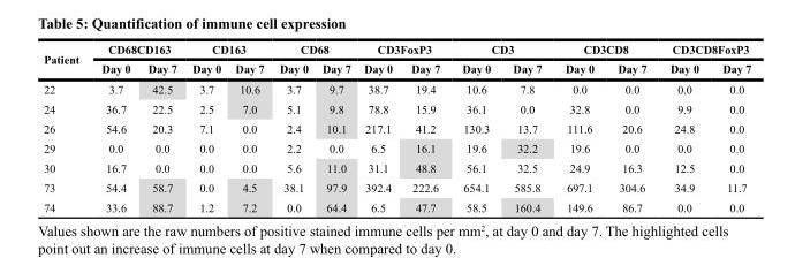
<table><thead><tr><td rowspan="2">Patient</td><td colspan="2">CD68CD163</td><td colspan="2">CD163</td><td colspan="2">CD68</td><td colspan="2">CD3FoxP3</td><td colspan="2">CD3</td><td colspan="2">CD3CD8</td><td colspan="2">CD3CD8FoxP3</td></tr><tr><td>Day 0</td><td>Day 7</td><td>Day 0</td><td>Day 7</td><td>Day 0</td><td>Day 7</td><td>Day 0</td><td>Day 7</td><td>Day 0</td><td>Day 7</td><td>Day 0</td><td>Day 7</td><td>Day 0</td><td>Day 7</td></tr></thead><tbody><tr><td>22</td><td>3.7</td><td>42.5</td><td>3.7</td><td>10.6</td><td>3.7</td><td>9.7</td><td>38.7</td><td>19.4</td><td>10.6</td><td>7.8</td><td>0.0</td><td>0.0</td><td>0.0</td><td>0.0</td></tr><tr><td>24</td><td>36.7</td><td>22.5</td><td>2.5</td><td>7.0</td><td>5.1</td><td>9.8</td><td>78.8</td><td>15.9</td><td>36.1</td><td>0.0</td><td>32.8</td><td>0.0</td><td>9.9</td><td>0.0</td></tr><tr><td>26</td><td>54.6</td><td>20.3</td><td>7.1</td><td>0.0</td><td>2.4</td><td>10.1</td><td>217.1</td><td>41.2</td><td>130.3</td><td>13.7</td><td>111.6</td><td>20.6</td><td>24.8</td><td>0.0</td></tr><tr><td>29</td><td>0.0</td><td>0.0</td><td>0.0</td><td>0.0</td><td>2.2</td><td>0.0</td><td>6.5</td><td>16.1</td><td>19.6</td><td>32.2</td><td>19.6</td><td>0.0</td><td>0.0</td><td>0.0</td></tr><tr><td>30</td><td>16.7</td><td>0.0</td><td>0.0</td><td>0.0</td><td>5.6</td><td>11.0</td><td>31.1</td><td>48.8</td><td>56.1</td><td>32.5</td><td>24.9</td><td>16.3</td><td>12.5</td><td>0.0</td></tr><tr><td>73</td><td>54.4</td><td>58.7</td><td>0.0</td><td>4.5</td><td>38.1</td><td>97.9</td><td>392.4</td><td>222.6</td><td>654.1</td><td>585.8</td><td>697.1</td><td>304.6</td><td>34.9</td><td>11.7</td></tr><tr><td>74</td><td>33.6</td><td>88.7</td><td>1.2</td><td>7.2</td><td>0.0</td><td>64.4</td><td>6.5</td><td>47.7</td><td>58.5</td><td>160.4</td><td>149.6</td><td>86.7</td><td>0.0</td><td>0.0</td></tr></tbody></table>